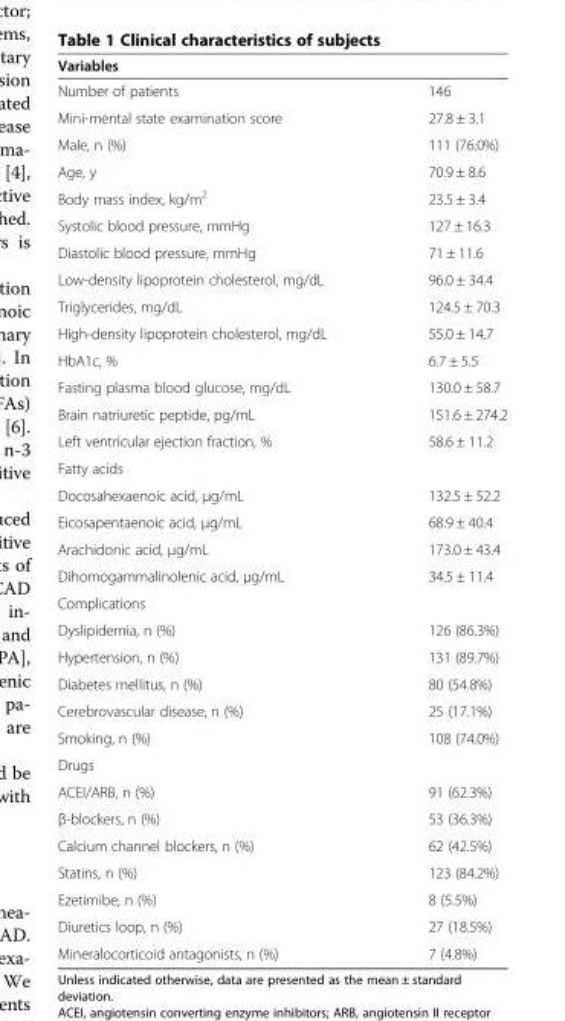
<table><thead><tr><td>Variables</td><td></td></tr></thead><tbody><tr><td>Number of patients</td><td>146</td></tr><tr><td>Mini-mental state examination score</td><td>27.8 ± 3.1</td></tr><tr><td>Male, n (%)</td><td>111 (76.0%)</td></tr><tr><td>Age, y</td><td>70.9 ± 8.6</td></tr><tr><td>Body mass index, kg/m<sup>2</sup></td><td>23.5 ± 3.4</td></tr><tr><td>Systolic blood pressure, mmHg</td><td>127 ± 16.3</td></tr><tr><td>Diastolic blood pressure, mmHg</td><td>71 ± 11.6</td></tr><tr><td>Low-density lipoprotein cholesterol, mg/dL</td><td>96.0 ± 34.4</td></tr><tr><td>Triglycerides, mg/dL</td><td>124.5 ± 70.3</td></tr><tr><td>High-density lipoprotein cholesterol, mg/dL</td><td>55.0 ± 14.7</td></tr><tr><td>HbA1c, %</td><td>6.7 ± 5.5</td></tr><tr><td>Fasting plasma blood glucose, mg/dL</td><td>130.0 ± 58.7</td></tr><tr><td>Brain natriuretic peptide, pg/mL</td><td>151.6 ± 274.2</td></tr><tr><td>Left ventricular ejection fraction, %</td><td>58.6 ± 11.2</td></tr><tr><td colspan="2">Fatty acids</td></tr><tr><td>Docosahexaenoic acid, μg/mL</td><td>132.5 ± 52.2</td></tr><tr><td>Eicosapentaenoic acid, μg/mL</td><td>68.9 ± 40.4</td></tr><tr><td>Arachidonic acid, μg/mL</td><td>173.0 ± 43.4</td></tr><tr><td>Dihomogammalinolenic acid, μg/mL</td><td>34.5 ± 11.4</td></tr><tr><td colspan="2">Complications</td></tr><tr><td>Dyslipidemia, n (%)</td><td>126 (86.3%)</td></tr><tr><td>Hypertension, n (%)</td><td>131 (89.7%)</td></tr><tr><td>Diabetes mellitus, n (%)</td><td>80 (54.8%)</td></tr><tr><td>Cerebrovascular disease, n (%)</td><td>25 (17.1%)</td></tr><tr><td>Smoking, n (%)</td><td>108 (74.0%)</td></tr><tr><td colspan="2">Drugs</td></tr><tr><td>ACEI/ARB, n (%)</td><td>91 (62.3%)</td></tr><tr><td>β-blockers, n (%)</td><td>53 (36.3%)</td></tr><tr><td>Calcium channel blockers, n (%)</td><td>62 (42.5%)</td></tr><tr><td>Statins, n (%)</td><td>123 (84.2%)</td></tr><tr><td>Ezetimibe, n (%)</td><td>8 (5.5%)</td></tr><tr><td>Diuretics loop, n (%)</td><td>27 (18.5%)</td></tr><tr><td>Mineralocorticoid antagonists, n (%)</td><td>7 (4.8%)</td></tr></tbody></table>